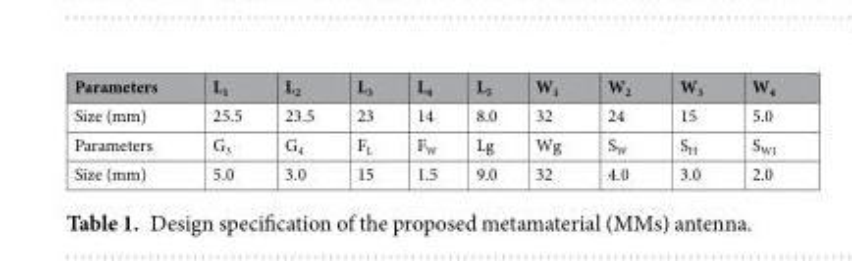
<table><thead><tr><td>Parameters</td><td>L<sub>1</sub></td><td>L<sub>2</sub></td><td>L<sub>3</sub></td><td>L<sub>4</sub></td><td>L<sub>5</sub></td><td>W<sub>1</sub></td><td>W<sub>2</sub></td><td>W<sub>3</sub></td><td>W<sub>4</sub></td></tr></thead><tbody><tr><td>Size (mm)</td><td>25.5</td><td>23.5</td><td>23</td><td>14</td><td>8.0</td><td>32</td><td>24</td><td>15</td><td>5.0</td></tr><tr><td>Parameters</td><td>G<sub>3</sub></td><td>G<sub>4</sub></td><td>F<sub>L</sub></td><td>F<sub>W</sub></td><td>Lg</td><td>Wg</td><td>S<sub>W</sub></td><td>S<sub>H</sub></td><td>S<sub>W1</sub></td></tr><tr><td>Size (mm)</td><td>5.0</td><td>3.0</td><td>15</td><td>1.5</td><td>9.0</td><td>32</td><td>4.0</td><td>3.0</td><td>2.0</td></tr></tbody></table>